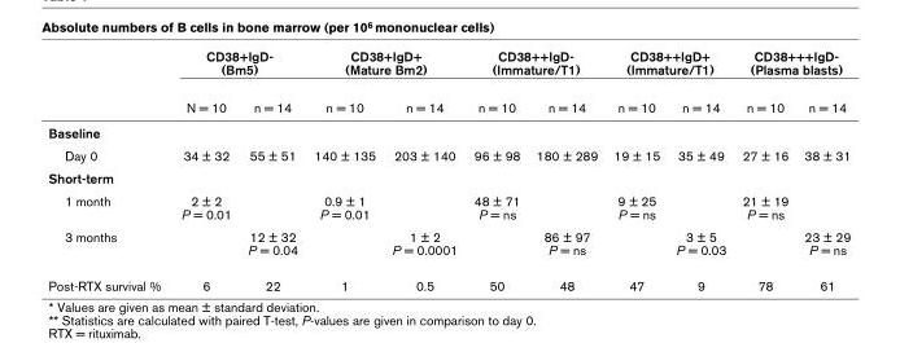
<table><thead><tr><td rowspan="2"></td><td colspan="2">CD38+IgD- (Bm5)</td><td colspan="2">CD38+IgD+ (Mature Bm2)</td><td colspan="2">CD38++IgD- (Immature/T1)</td><td colspan="2">CD38++IgD+ (Immature/T1)</td><td colspan="2">CD38+++IgD- (Plasma blasts)</td></tr><tr><td>N = 10</td><td>n = 14</td><td>n = 10</td><td>n = 14</td><td>n = 10</td><td>n = 14</td><td>n = 10</td><td>n = 14</td><td>n = 10</td><td>n = 14</td></tr></thead><tbody><tr><td colspan="11">Baseline</td></tr><tr><td>Day 0</td><td>34 ± 32</td><td>55 ± 51</td><td>140 ± 135</td><td>203 ± 140</td><td>96 ± 98</td><td>180 ± 289</td><td>19 ± 15</td><td>35 ± 49</td><td>27 ± 16</td><td>38 ± 31</td></tr><tr><td colspan="11">Short-term</td></tr><tr><td>1 month</td><td>2 ± 2 P = 0.01</td><td></td><td>0.9 ± 1 P = 0.01</td><td></td><td>48 ± 71 P = ns</td><td></td><td>9 ± 25 P = ns</td><td></td><td>21 ± 19 P = ns</td><td></td></tr><tr><td>3 months</td><td></td><td>12 ± 32 P = 0.04</td><td></td><td>1 ± 2 P = 0.0001</td><td></td><td>86 ± 97 P = ns</td><td></td><td>3 ± 5 P = 0.03</td><td></td><td>23 ± 29 P = ns</td></tr><tr><td>Post-RTX survival %</td><td>6</td><td>22</td><td>1</td><td>0.5</td><td>50</td><td>48</td><td>47</td><td>9</td><td>78</td><td>61</td></tr></tbody></table>